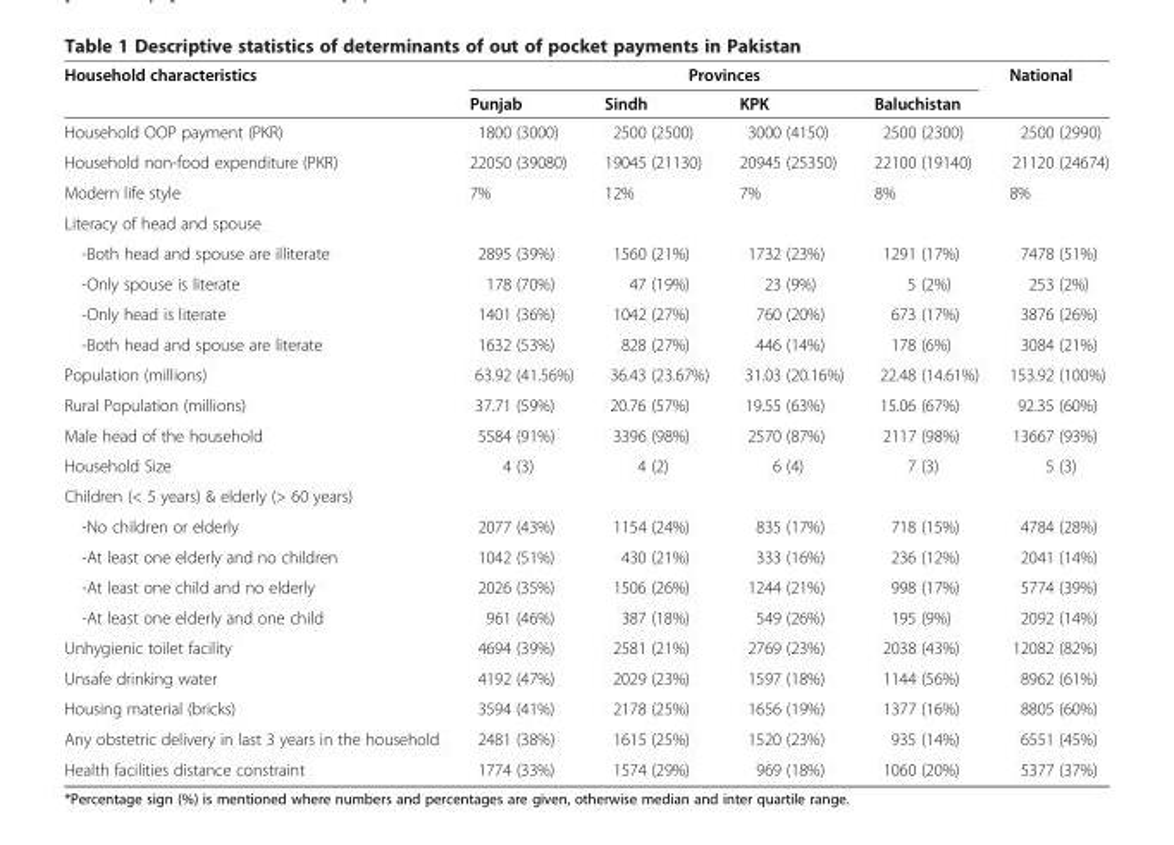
<table><thead><tr><td rowspan="2">Household characteristics</td><td colspan="4">Provinces</td><td rowspan="2">National</td></tr><tr><td>Punjab</td><td>Sindh</td><td>KPK</td><td>Baluchistan</td></tr></thead><tbody><tr><td>Household OOP payment (PKR)</td><td>1800 (3000)</td><td>2500 (2500)</td><td>3000 (4150)</td><td>2500 (2300)</td><td>2500 (2990)</td></tr><tr><td>Household non-food expenditure (PKR)</td><td>22050 (39080)</td><td>19045 (21130)</td><td>20945 (25350)</td><td>22100 (19140)</td><td>21120 (24674)</td></tr><tr><td>Modern life style</td><td>7%</td><td>12%</td><td>7%</td><td>8%</td><td>8%</td></tr><tr><td colspan="6">Literacy of head and spouse</td></tr><tr><td>-Both head and spouse are illiterate</td><td>2895 (39%)</td><td>1560 (21%)</td><td>1732 (23%)</td><td>1291 (17%)</td><td>7478 (51%)</td></tr><tr><td>-Only spouse is literate</td><td>178 (70%)</td><td>47 (19%)</td><td>23 (9%)</td><td>5 (2%)</td><td>253 (2%)</td></tr><tr><td>-Only head is literate</td><td>1401 (36%)</td><td>1042 (27%)</td><td>760 (20%)</td><td>673 (17%)</td><td>3876 (26%)</td></tr><tr><td>-Both head and spouse are literate</td><td>1632 (53%)</td><td>828 (27%)</td><td>446 (14%)</td><td>178 (6%)</td><td>3084 (21%)</td></tr><tr><td>Population (millions)</td><td>63.92 (41.56%)</td><td>36.43 (23.67%)</td><td>31.03 (20.16%)</td><td>22.48 (14.61%)</td><td>153.92 (100%)</td></tr><tr><td>Rural Population (millions)</td><td>37.71 (59%)</td><td>20.76 (57%)</td><td>19.55 (63%)</td><td>15.06 (67%)</td><td>92.35 (60%)</td></tr><tr><td>Male head of the household</td><td>5584 (91%)</td><td>3396 (98%)</td><td>2570 (87%)</td><td>2117 (98%)</td><td>13667 (93%)</td></tr><tr><td>Household Size</td><td>4 (3)</td><td>4 (2)</td><td>6 (4)</td><td>7 (3)</td><td>5 (3)</td></tr><tr><td colspan="6">Children (&lt; 5 years) &amp; elderly (&gt; 60 years)</td></tr><tr><td>-No children or elderly</td><td>2077 (43%)</td><td>1154 (24%)</td><td>835 (17%)</td><td>718 (15%)</td><td>4784 (28%)</td></tr><tr><td>-At least one elderly and no children</td><td>1042 (51%)</td><td>430 (21%)</td><td>333 (16%)</td><td>236 (12%)</td><td>2041 (14%)</td></tr><tr><td>-At least one child and no elderly</td><td>2026 (35%)</td><td>1506 (26%)</td><td>1244 (21%)</td><td>998 (17%)</td><td>5774 (39%)</td></tr><tr><td>-At least one elderly and one child</td><td>961 (46%)</td><td>387 (18%)</td><td>549 (26%)</td><td>195 (9%)</td><td>2092 (14%)</td></tr><tr><td>Unhygienic toilet facility</td><td>4694 (39%)</td><td>2581 (21%)</td><td>2769 (23%)</td><td>2038 (43%)</td><td>12082 (82%)</td></tr><tr><td>Unsafe drinking water</td><td>4192 (47%)</td><td>2029 (23%)</td><td>1597 (18%)</td><td>1144 (56%)</td><td>8962 (61%)</td></tr><tr><td>Housing material (bricks)</td><td>3594 (41%)</td><td>2178 (25%)</td><td>1656 (19%)</td><td>1377 (16%)</td><td>8805 (60%)</td></tr><tr><td>Any obstetric delivery in last 3 years in the household</td><td>2481 (38%)</td><td>1615 (25%)</td><td>1520 (23%)</td><td>935 (14%)</td><td>6551 (45%)</td></tr><tr><td>Health facilities distance constraint</td><td>1774 (33%)</td><td>1574 (29%)</td><td>969 (18%)</td><td>1060 (20%)</td><td>5377 (37%)</td></tr></tbody></table>